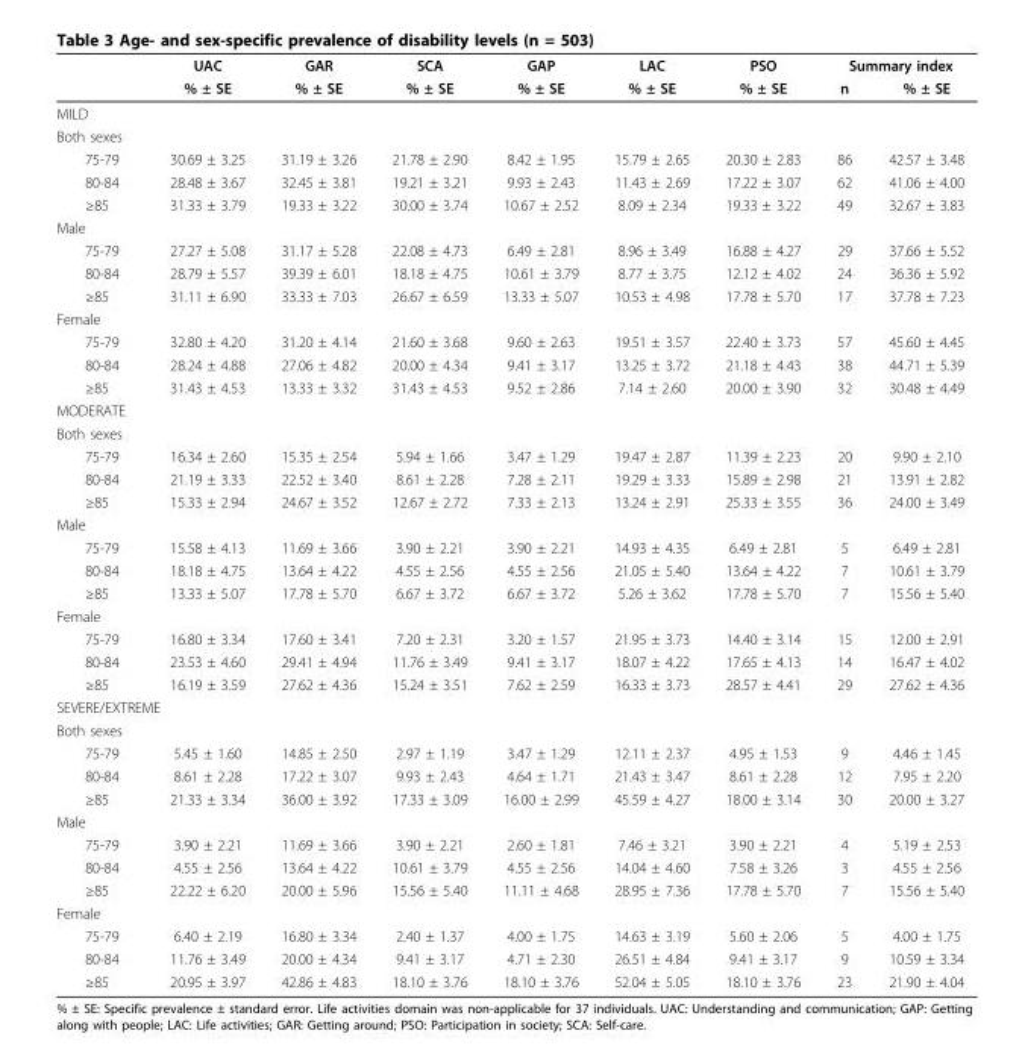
<table><thead><tr><td rowspan="2"></td><td rowspan="2">UAC % ± SE</td><td rowspan="2">GAR % ± SE</td><td rowspan="2">SCA % ± SE</td><td rowspan="2">GAP % ± SE</td><td rowspan="2">LAC % ± SE</td><td rowspan="2">PSO % ± SE</td><td colspan="2">Summary index</td></tr><tr><td>n</td><td>% ± SE</td></tr></thead><tbody><tr><td colspan="9">MILD</td></tr><tr><td colspan="9">Both sexes</td></tr><tr><td>75-79</td><td>30.69 ± 3.25</td><td>31.19 ± 3.26</td><td>21.78 ± 2.90</td><td>8.42 ± 1.95</td><td>15.79 ± 2.65</td><td>20.30 ± 2.83</td><td>86</td><td>42.57 ± 3.48</td></tr><tr><td>80-84</td><td>28.48 ± 3.67</td><td>32.45 ± 3.81</td><td>19.21 ± 3.21</td><td>9.93 ± 2.43</td><td>11.43 ± 2.69</td><td>17.22 ± 3.07</td><td>62</td><td>41.06 ± 4.00</td></tr><tr><td>≥85</td><td>31.33 ± 3.79</td><td>19.33 ± 3.22</td><td>30.00 ± 3.74</td><td>10.67 ± 2.52</td><td>8.09 ± 2.34</td><td>19.33 ± 3.22</td><td>49</td><td>32.67 ± 3.83</td></tr><tr><td colspan="9">Male</td></tr><tr><td>75-79</td><td>27.27 ± 5.08</td><td>31.17 ± 5.28</td><td>22.08 ± 4.73</td><td>6.49 ± 2.81</td><td>8.96 ± 3.49</td><td>16.88 ± 4.27</td><td>29</td><td>37.66 ± 5.52</td></tr><tr><td>80-84</td><td>28.79 ± 5.57</td><td>39.39 ± 6.01</td><td>18.18 ± 4.75</td><td>10.61 ± 3.79</td><td>8.77 ± 3.75</td><td>12.12 ± 4.02</td><td>24</td><td>36.36 ± 5.92</td></tr><tr><td>≥85</td><td>31.11 ± 6.90</td><td>33.33 ± 7.03</td><td>26.67 ± 6.59</td><td>13.33 ± 5.07</td><td>10.53 ± 4.98</td><td>17.78 ± 5.70</td><td>17</td><td>37.78 ± 7.23</td></tr><tr><td colspan="9">Female</td></tr><tr><td>75-79</td><td>32.80 ± 4.20</td><td>31.20 ± 4.14</td><td>21.60 ± 3.68</td><td>9.60 ± 2.63</td><td>19.51 ± 3.57</td><td>22.40 ± 3.73</td><td>57</td><td>45.60 ± 4.45</td></tr><tr><td>80-84</td><td>28.24 ± 4.88</td><td>27.06 ± 4.82</td><td>20.00 ± 4.34</td><td>9.41 ± 3.17</td><td>13.25 ± 3.72</td><td>21.18 ± 4.43</td><td>38</td><td>44.71 ± 5.39</td></tr><tr><td>≥85</td><td>31.43 ± 4.53</td><td>13.33 ± 3.32</td><td>31.43 ± 4.53</td><td>9.52 ± 2.86</td><td>7.14 ± 2.60</td><td>20.00 ± 3.90</td><td>32</td><td>30.48 ± 4.49</td></tr><tr><td colspan="9">MODERATE</td></tr><tr><td colspan="9">Both sexes</td></tr><tr><td>75-79</td><td>16.34 ± 2.60</td><td>15.35 ± 2.54</td><td>5.94 ± 1.66</td><td>3.47 ± 1.29</td><td>19.47 ± 2.87</td><td>11.39 ± 2.23</td><td>20</td><td>9.90 ± 2.10</td></tr><tr><td>80-84</td><td>21.19 ± 3.33</td><td>22.52 ± 3.40</td><td>8.61 ± 2.28</td><td>7.28 ± 2.11</td><td>19.29 ± 3.33</td><td>15.89 ± 2.98</td><td>21</td><td>13.91 ± 2.82</td></tr><tr><td>≥85</td><td>15.33 ± 2.94</td><td>24.67 ± 3.52</td><td>12.67 ± 2.72</td><td>7.33 ± 2.13</td><td>13.24 ± 2.91</td><td>25.33 ± 3.55</td><td>36</td><td>24.00 ± 3.49</td></tr><tr><td colspan="9">Male</td></tr><tr><td>75-79</td><td>15.58 ± 4.13</td><td>11.69 ± 3.66</td><td>3.90 ± 2.21</td><td>3.90 ± 2.21</td><td>14.93 ± 4.35</td><td>6.49 ± 2.81</td><td>5</td><td>6.49 ± 2.81</td></tr><tr><td>80-84</td><td>18.18 ± 4.75</td><td>13.64 ± 4.22</td><td>4.55 ± 2.56</td><td>4.55 ± 2.56</td><td>21.05 ± 5.40</td><td>13.64 ± 4.22</td><td>7</td><td>10.61 ± 3.79</td></tr><tr><td>≥85</td><td>13.33 ± 5.07</td><td>17.78 ± 5.70</td><td>6.67 ± 3.72</td><td>6.67 ± 3.72</td><td>5.26 ± 3.62</td><td>17.78 ± 5.70</td><td>7</td><td>15.56 ± 5.40</td></tr><tr><td colspan="9">Female</td></tr><tr><td>75-79</td><td>16.80 ± 3.34</td><td>17.60 ± 3.41</td><td>7.20 ± 2.31</td><td>3.20 ± 1.57</td><td>21.95 ± 3.73</td><td>14.40 ± 3.14</td><td>15</td><td>12.00 ± 2.91</td></tr><tr><td>80-84</td><td>23.53 ± 4.60</td><td>29.41 ± 4.94</td><td>11.76 ± 3.49</td><td>9.41 ± 3.17</td><td>18.07 ± 4.22</td><td>17.65 ± 4.13</td><td>14</td><td>16.47 ± 4.02</td></tr><tr><td>≥85</td><td>16.19 ± 3.59</td><td>27.62 ± 4.36</td><td>15.24 ± 3.51</td><td>7.62 ± 2.59</td><td>16.33 ± 3.73</td><td>28.57 ± 4.41</td><td>29</td><td>27.62 ± 4.36</td></tr><tr><td colspan="9">SEVERE/EXTREME</td></tr><tr><td colspan="9">Both sexes</td></tr><tr><td>75-79</td><td>5.45 ± 1.60</td><td>14.85 ± 2.50</td><td>2.97 ± 1.19</td><td>3.47 ± 1.29</td><td>12.11 ± 2.37</td><td>4.95 ± 1.53</td><td>9</td><td>4.46 ± 1.45</td></tr><tr><td>80-84</td><td>8.61 ± 2.28</td><td>17.22 ± 3.07</td><td>9.93 ± 2.43</td><td>4.64 ± 1.71</td><td>21.43 ± 3.47</td><td>8.61 ± 2.28</td><td>12</td><td>7.95 ± 2.20</td></tr><tr><td>≥85</td><td>21.33 ± 3.34</td><td>36.00 ± 3.92</td><td>17.33 ± 3.09</td><td>16.00 ± 2.99</td><td>45.59 ± 4.27</td><td>18.00 ± 3.14</td><td>30</td><td>20.00 ± 3.27</td></tr><tr><td colspan="9">Male</td></tr><tr><td>75-79</td><td>3.90 ± 2.21</td><td>11.69 ± 3.66</td><td>3.90 ± 2.21</td><td>2.60 ± 1.81</td><td>7.46 ± 3.21</td><td>3.90 ± 2.21</td><td>4</td><td>5.19 ± 2.53</td></tr><tr><td>80-84</td><td>4.55 ± 2.56</td><td>13.64 ± 4.22</td><td>10.61 ± 3.79</td><td>4.55 ± 2.56</td><td>14.04 ± 4.60</td><td>7.58 ± 3.26</td><td>3</td><td>4.55 ± 2.56</td></tr><tr><td>≥85</td><td>22.22 ± 6.20</td><td>20.00 ± 5.96</td><td>15.56 ± 5.40</td><td>11.11 ± 4.68</td><td>28.95 ± 7.36</td><td>17.78 ± 5.70</td><td>7</td><td>15.56 ± 5.40</td></tr><tr><td colspan="9">Female</td></tr><tr><td>75-79</td><td>6.40 ± 2.19</td><td>16.80 ± 3.34</td><td>2.40 ± 1.37</td><td>4.00 ± 1.75</td><td>14.63 ± 3.19</td><td>5.60 ± 2.06</td><td>5</td><td>4.00 ± 1.75</td></tr><tr><td>80-84</td><td>11.76 ± 3.49</td><td>20.00 ± 4.34</td><td>9.41 ± 3.17</td><td>4.71 ± 2.30</td><td>26.51 ± 4.84</td><td>9.41 ± 3.17</td><td>9</td><td>10.59 ± 3.34</td></tr><tr><td>≥85</td><td>20.95 ± 3.97</td><td>42.86 ± 4.83</td><td>18.10 ± 3.76</td><td>18.10 ± 3.76</td><td>52.04 ± 5.05</td><td>18.10 ± 3.76</td><td>23</td><td>21.90 ± 4.04</td></tr></tbody></table>